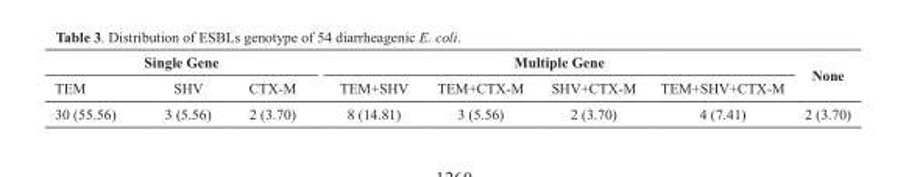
<table><thead><tr><td colspan="3">Single Gene</td><td colspan="4">Multiple Gene</td><td rowspan="2">None</td></tr><tr><td>TEM</td><td>SHV</td><td>CTX-M</td><td>TEM+SHV</td><td>TEM+CTX-M</td><td>SHV+CTX-M</td><td>TEM+SHV+CTX-M</td></tr></thead><tbody><tr><td>30 (55.56)</td><td>3 (5.56)</td><td>2 (3.70)</td><td>8 (14.81)</td><td>3 (5.56)</td><td>2 (3.70)</td><td>4 (7.41)</td><td>2 (3.70)</td></tr></tbody></table>